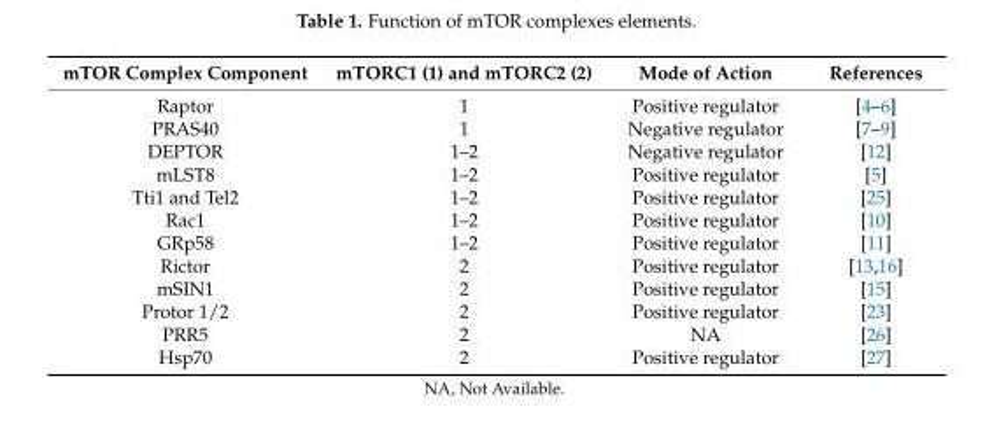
<table><thead><tr><td>mTOR Complex Component</td><td>mTORC1 (1) and mTORC2 (2)</td><td>Mode of Action</td><td>References</td></tr></thead><tbody><tr><td>Raptor</td><td>1</td><td>Positive regulator</td><td>[4–6]</td></tr><tr><td>PRAS40</td><td>1</td><td>Negative regulator</td><td>[7–9]</td></tr><tr><td>DEPTOR</td><td>1–2</td><td>Negative regulator</td><td>[12]</td></tr><tr><td>mLST8</td><td>1–2</td><td>Positive regulator</td><td>[5]</td></tr><tr><td>Tti1 and Tel2</td><td>1–2</td><td>Positive regulator</td><td>[25]</td></tr><tr><td>Rac1</td><td>1–2</td><td>Positive regulator</td><td>[10]</td></tr><tr><td>GRp58</td><td>1–2</td><td>Positive regulator</td><td>[11]</td></tr><tr><td>Rictor</td><td>2</td><td>Positive regulator</td><td>[13,16]</td></tr><tr><td>mSIN1</td><td>2</td><td>Positive regulator</td><td>[15]</td></tr><tr><td>Protor 1/2</td><td>2</td><td>Positive regulator</td><td>[23]</td></tr><tr><td>PRR5</td><td>2</td><td>NA</td><td>[26]</td></tr><tr><td>Hsp70</td><td>2</td><td>Positive regulator</td><td>[27]</td></tr></tbody></table>